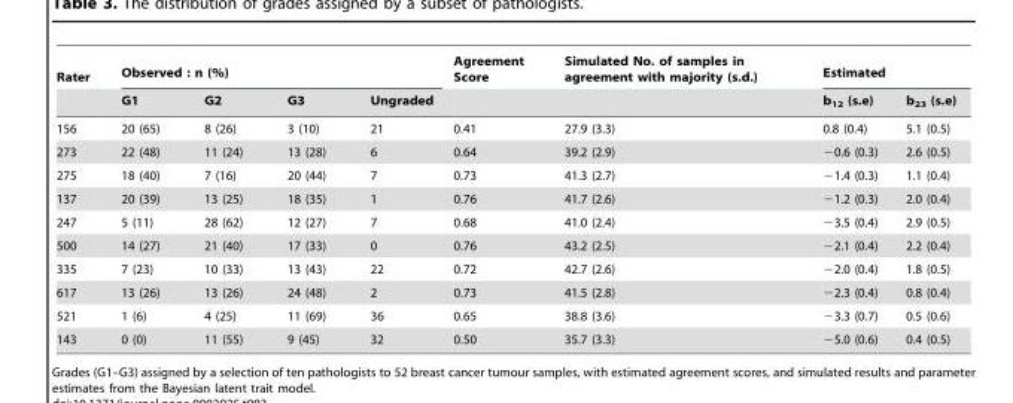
<table><thead><tr><td rowspan="2">Rater</td><td colspan="4">Observed : n (%)</td><td rowspan="2">Agreement Score</td><td rowspan="2">Simulated No. of samples in agreement with majority (s.d.)</td><td colspan="2">Estimated</td></tr><tr><td>G1</td><td>G2</td><td>G3</td><td>Ungraded</td><td>b<sub>12</sub> (s.e)</td><td>b<sub>23</sub> (s.e)</td></tr></thead><tbody><tr><td>156</td><td>20 (65)</td><td>8 (26)</td><td>3 (10)</td><td>21</td><td>0.41</td><td>27.9 (3.3)</td><td>0.8 (0.4)</td><td>5.1 (0.5)</td></tr><tr><td>273</td><td>22 (48)</td><td>11 (24)</td><td>13 (28)</td><td>6</td><td>0.64</td><td>39.2 (2.9)</td><td>−0.6 (0.3)</td><td>2.6 (0.5)</td></tr><tr><td>275</td><td>18 (40)</td><td>7 (16)</td><td>20 (44)</td><td>7</td><td>0.73</td><td>41.3 (2.7)</td><td>−1.4 (0.3)</td><td>1.1 (0.4)</td></tr><tr><td>137</td><td>20 (39)</td><td>13 (25)</td><td>18 (35)</td><td>1</td><td>0.76</td><td>41.7 (2.6)</td><td>−1.2 (0.3)</td><td>2.0 (0.4)</td></tr><tr><td>247</td><td>5 (11)</td><td>28 (62)</td><td>12 (27)</td><td>7</td><td>0.68</td><td>41.0 (2.4)</td><td>−3.5 (0.4)</td><td>2.9 (0.5)</td></tr><tr><td>500</td><td>14 (27)</td><td>21 (40)</td><td>17 (33)</td><td>0</td><td>0.76</td><td>43.2 (2.5)</td><td>−2.1 (0.4)</td><td>2.2 (0.4)</td></tr><tr><td>335</td><td>7 (23)</td><td>10 (33)</td><td>13 (43)</td><td>22</td><td>0.72</td><td>42.7 (2.6)</td><td>−2.0 (0.4)</td><td>1.8 (0.5)</td></tr><tr><td>617</td><td>13 (26)</td><td>13 (26)</td><td>24 (48)</td><td>2</td><td>0.73</td><td>41.5 (2.8)</td><td>−2.3 (0.4)</td><td>0.8 (0.4)</td></tr><tr><td>521</td><td>1 (6)</td><td>4 (25)</td><td>11 (69)</td><td>36</td><td>0.65</td><td>38.8 (3.6)</td><td>−3.3 (0.7)</td><td>0.5 (0.6)</td></tr><tr><td>143</td><td>0 (0)</td><td>11 (55)</td><td>9 (45)</td><td>32</td><td>0.50</td><td>35.7 (3.3)</td><td>−5.0 (0.6)</td><td>0.4 (0.5)</td></tr></tbody></table>